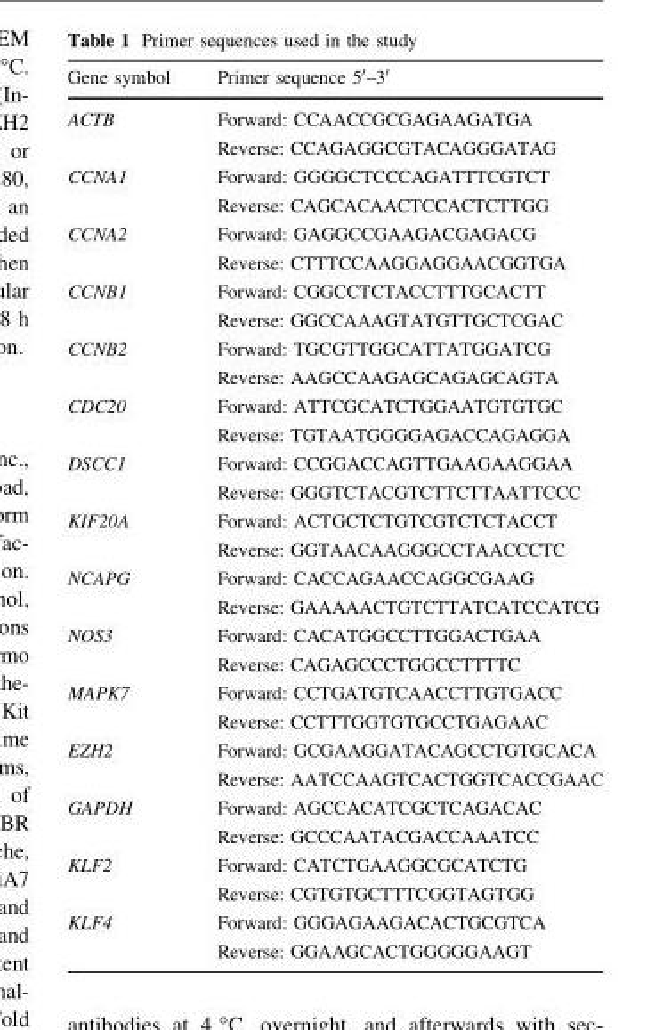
<table><thead><tr><td>Gene symbol</td><td>Primer sequence 5′–3′</td></tr></thead><tbody><tr><td rowspan="2">ACTB</td><td>Forward: CCAACCGCGAGAAGATGA</td></tr><tr><td>Reverse: CCAGAGGCGTACAGGGATAG</td></tr><tr><td rowspan="2">CCNA1</td><td>Forward: GGGGCTCCCAGATTTCGTCT</td></tr><tr><td>Reverse: CAGCACAACTCCACTCTTGG</td></tr><tr><td rowspan="2">CCNA2</td><td>Forward: GAGGCCGAAGACGAGACG</td></tr><tr><td>Reverse: CTTTCCAAGGAGGAACGGTGA</td></tr><tr><td rowspan="2">CCNB1</td><td>Forward: CGGCCTCTACCTTTGCACTT</td></tr><tr><td>Reverse: GGCCAAAGTATGTTGCTCGAC</td></tr><tr><td rowspan="2">CCNB2</td><td>Forward: TGCGTTGGCATTATGGATCG</td></tr><tr><td>Reverse: AAGCCAAGAGCAGAGCAGTA</td></tr><tr><td rowspan="2">CDC20</td><td>Forward: ATTCGCATCTGGAATGTGTGC</td></tr><tr><td>Reverse: TGTAATGGGGAGACCAGAGGA</td></tr><tr><td rowspan="2">DSCC1</td><td>Forward: CCGGACCAGTTGAAGAAGGAA</td></tr><tr><td>Reverse: GGGTCTACGTCTTCTTAATTCCC</td></tr><tr><td rowspan="2">KIF20A</td><td>Forward: ACTGCTCTGTCGTCTCTACCT</td></tr><tr><td>Reverse: GGTAACAAGGGCCTAACCCTC</td></tr><tr><td rowspan="2">NCAPG</td><td>Forward: CACCAGAACCAGGCGAAG</td></tr><tr><td>Reverse: GAAAAACTGTCTTATCATCCATCG</td></tr><tr><td rowspan="2">NOS3</td><td>Forward: CACATGGCCTTGGACTGAA</td></tr><tr><td>Reverse: CAGAGCCCTGGCCTTTTC</td></tr><tr><td rowspan="2">MAPK7</td><td>Forward: CCTGATGTCAACCTTGTGACC</td></tr><tr><td>Reverse: CCTTTGGTGTGCCTGAGAAC</td></tr><tr><td rowspan="2">EZH2</td><td>Forward: GCGAAGGATACAGCCTGTGCACA</td></tr><tr><td>Reverse: AATCCAAGTCACTGGTCACCGAAC</td></tr><tr><td rowspan="2">GAPDH</td><td>Forward: AGCCACATCGCTCAGACAC</td></tr><tr><td>Reverse: GCCCAATACGACCAAATCC</td></tr><tr><td rowspan="2">KLF2</td><td>Forward: CATCTGAAGGCGCATCTG</td></tr><tr><td>Reverse: CGTGTGCTTTCGGTAGTGG</td></tr><tr><td rowspan="2">KLF4</td><td>Forward: GGGAGAAGACACTGCGTCA</td></tr><tr><td>Reverse: GGAAGCACTGGGGGAAGT</td></tr></tbody></table>